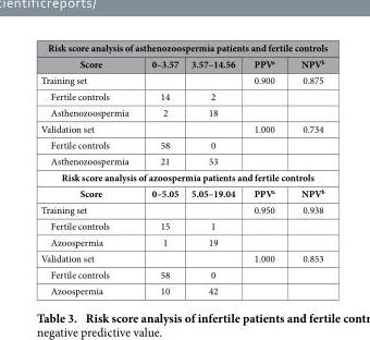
<table><thead><tr><td colspan="5">Risk score analysis of asthenozoospermia patients and fertile controls</td></tr><tr><td>Score</td><td>0–3.57</td><td>3.57–14.56</td><td>PPVa</td><td>NPV<sup>b</sup></td></tr></thead><tbody><tr><td>Training set</td><td></td><td></td><td>0.900</td><td>0.875</td></tr><tr><td>Fertile controls</td><td>14</td><td>2</td><td></td><td></td></tr><tr><td>Asthenozoospermia</td><td>2</td><td>18</td><td></td><td></td></tr><tr><td>Validation set</td><td></td><td></td><td>1.000</td><td>0.734</td></tr><tr><td>Fertile controls</td><td>58</td><td>0</td><td></td><td></td></tr><tr><td>Asthenozoospermia</td><td>21</td><td>53</td><td></td><td></td></tr><tr><td colspan="5">Risk score analysis of azoospermia patients and fertile controls</td></tr><tr><td>Score</td><td>0–5.05</td><td>5.05–19.04</td><td>PPV<sup>a</sup></td><td>NPV<sup>b</sup></td></tr><tr><td>Training set</td><td></td><td></td><td>0.950</td><td>0.938</td></tr><tr><td>Fertile controls</td><td>15</td><td>1</td><td></td><td></td></tr><tr><td>Azoospermia</td><td>1</td><td>19</td><td></td><td></td></tr><tr><td>Validation set</td><td></td><td></td><td>1.000</td><td>0.853</td></tr><tr><td>Fertile controls</td><td>58</td><td>0</td><td></td><td></td></tr><tr><td>Azoospermia</td><td>10</td><td>42</td><td></td><td></td></tr></tbody></table>